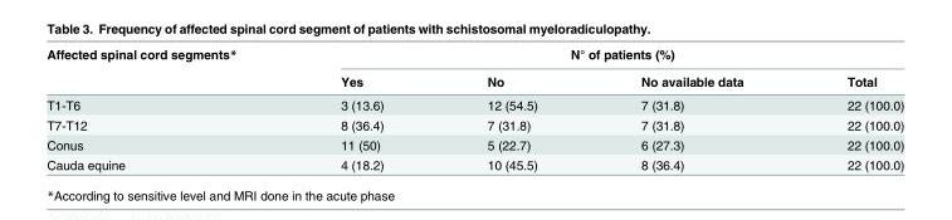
<table><thead><tr><td rowspan="2">Affected spinal cord segments*</td><td colspan="4">N° of patients (%)</td></tr><tr><td>Yes</td><td>No</td><td>No available data</td><td>Total</td></tr></thead><tbody><tr><td>T1-T6</td><td>3 (13.6)</td><td>12 (54.5)</td><td>7 (31.8)</td><td>22 (100.0)</td></tr><tr><td>T7-T12</td><td>8 (36.4)</td><td>7 (31.8)</td><td>7 (31.8)</td><td>22 (100.0)</td></tr><tr><td>Conus</td><td>11 (50)</td><td>5 (22.7)</td><td>6 (27.3)</td><td>22 (100.0)</td></tr><tr><td>Cauda equine</td><td>4 (18.2)</td><td>10 (45.5)</td><td>8 (36.4)</td><td>22 (100.0)</td></tr></tbody></table>